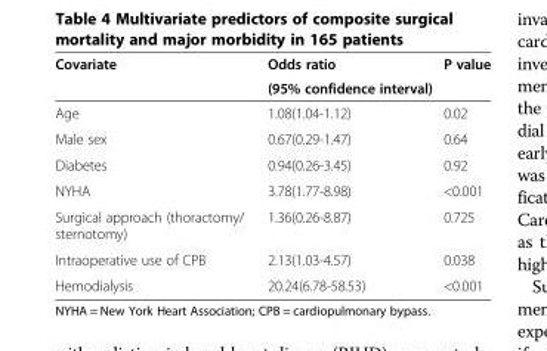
<table><thead><tr><td rowspan="2">Covariate</td><td rowspan="2">Odds ratio (95% confidence interval)</td><td rowspan="2">P value</td></tr><tr></tr></thead><tbody><tr><td>Age</td><td>1.08(1.04-1.12)</td><td>0.02</td></tr><tr><td>Male sex</td><td>0.67(0.29-1.47)</td><td>0.64</td></tr><tr><td>Diabetes</td><td>0.94(0.26-3.45)</td><td>0.92</td></tr><tr><td>NYHA</td><td>3.78(1.77-8.98)</td><td>&lt;0.001</td></tr><tr><td>Surgical approach (thoractomy/ sternotomy)</td><td>1.36(0.26-8.87)</td><td>0.725</td></tr><tr><td>Intraoperative use of CPB</td><td>2.13(1.03-4.57)</td><td>0.038</td></tr><tr><td>Hemodialysis</td><td>20.24(6.78-58.53)</td><td>&lt;0.001</td></tr></tbody></table>